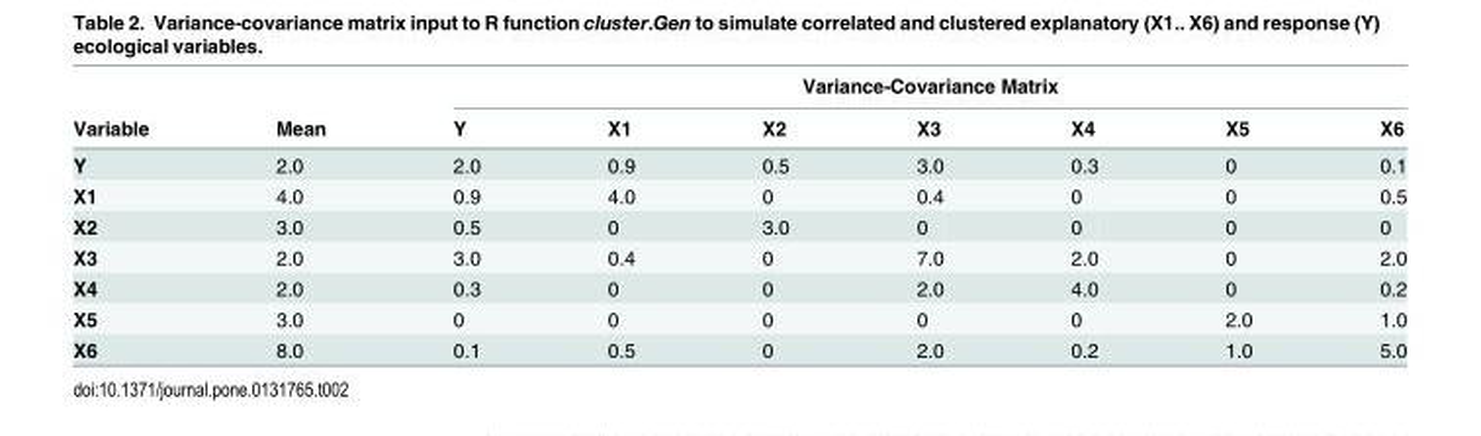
<table><thead><tr><td rowspan="2">Variable</td><td rowspan="2">Mean</td><td colspan="7">Variance-Covariance Matrix</td></tr><tr><td>Y</td><td>X1</td><td>X2</td><td>X3</td><td>X4</td><td>X5</td><td>X6</td></tr></thead><tbody><tr><td>Y</td><td>2.0</td><td>2.0</td><td>0.9</td><td>0.5</td><td>3.0</td><td>0.3</td><td>0</td><td>0.1</td></tr><tr><td>X1</td><td>4.0</td><td>0.9</td><td>4.0</td><td>0</td><td>0.4</td><td>0</td><td>0</td><td>0.5</td></tr><tr><td>X2</td><td>3.0</td><td>0.5</td><td>0</td><td>3.0</td><td>0</td><td>0</td><td>0</td><td>0</td></tr><tr><td>X3</td><td>2.0</td><td>3.0</td><td>0.4</td><td>0</td><td>7.0</td><td>2.0</td><td>0</td><td>2.0</td></tr><tr><td>X4</td><td>2.0</td><td>0.3</td><td>0</td><td>0</td><td>2.0</td><td>4.0</td><td>0</td><td>0.2</td></tr><tr><td>X5</td><td>3.0</td><td>0</td><td>0</td><td>0</td><td>0</td><td>0</td><td>2.0</td><td>1.0</td></tr><tr><td>X6</td><td>8.0</td><td>0.1</td><td>0.5</td><td>0</td><td>2.0</td><td>0.2</td><td>1.0</td><td>5.0</td></tr></tbody></table>